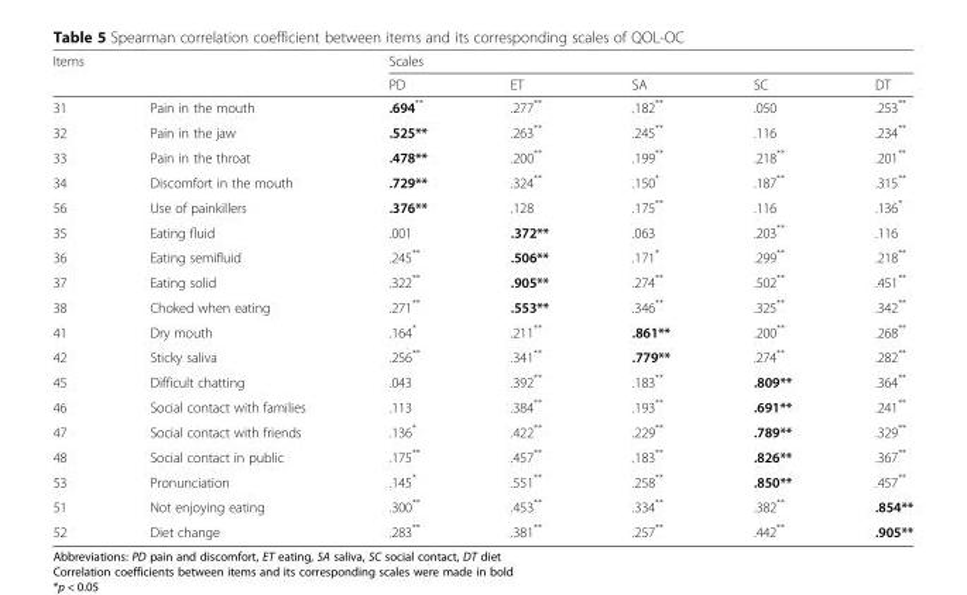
<table><thead><tr><td rowspan="2" colspan="2">Items</td><td colspan="5">Scales</td></tr><tr><td rowspan="2">PD .694**</td><td rowspan="2">ET .277**</td><td rowspan="2">SA .182**</td><td rowspan="2">SC .050</td><td rowspan="2">DT .253**</td></tr><tr><td>31</td><td>Pain in the mouth</td></tr></thead><tbody><tr><td>32</td><td>Pain in the jaw</td><td>.525**</td><td>.263**</td><td>.245**</td><td>.116</td><td>.234**</td></tr><tr><td>33</td><td>Pain in the throat</td><td>.478**</td><td>.200**</td><td>.199**</td><td>.218**</td><td>.201**</td></tr><tr><td>34</td><td>Discomfort in the mouth</td><td>.729**</td><td>.324**</td><td>.150*</td><td>.187**</td><td>.315**</td></tr><tr><td>56</td><td>Use of painkillers</td><td>.376**</td><td>.128</td><td>.175**</td><td>.116</td><td>.136*</td></tr><tr><td>35</td><td>Eating fluid</td><td>.001</td><td>.372**</td><td>.063</td><td>.203**</td><td>.116</td></tr><tr><td>36</td><td>Eating semifluid</td><td>.245**</td><td>.506**</td><td>.171*</td><td>.299**</td><td>.218**</td></tr><tr><td>37</td><td>Eating solid</td><td>.322**</td><td>.905**</td><td>.274**</td><td>.502**</td><td>.451**</td></tr><tr><td>38</td><td>Choked when eating</td><td>.271**</td><td>.553**</td><td>.346**</td><td>.325**</td><td>.342**</td></tr><tr><td>41</td><td>Dry mouth</td><td>.164*</td><td>.211**</td><td>.861**</td><td>.200**</td><td>.268**</td></tr><tr><td>42</td><td>Sticky saliva</td><td>.256**</td><td>.341**</td><td>.779**</td><td>.274**</td><td>.282**</td></tr><tr><td>45</td><td>Difficult chatting</td><td>.043</td><td>.392**</td><td>.183**</td><td>.809**</td><td>.364**</td></tr><tr><td>46</td><td>Social contact with families</td><td>.113</td><td>.384**</td><td>.193**</td><td>.691**</td><td>.241**</td></tr><tr><td>47</td><td>Social contact with friends</td><td>.136*</td><td>.422**</td><td>.229**</td><td>.789**</td><td>.329**</td></tr><tr><td>48</td><td>Social contact in public</td><td>.175**</td><td>.457**</td><td>.183**</td><td>.826**</td><td>.367**</td></tr><tr><td>53</td><td>Pronunciation</td><td>.145*</td><td>.551**</td><td>.258**</td><td>.850**</td><td>.457**</td></tr><tr><td>51</td><td>Not enjoying eating</td><td>.300**</td><td>.453**</td><td>.334**</td><td>.382**</td><td>.854**</td></tr><tr><td>52</td><td>Diet change</td><td>.283**</td><td>.381**</td><td>.257**</td><td>.442**</td><td>.905**</td></tr></tbody></table>